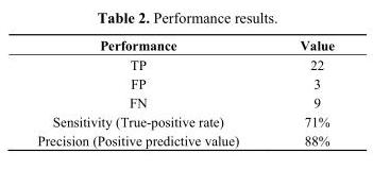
<table><thead><tr><td>Performance</td><td>Value</td></tr></thead><tbody><tr><td>TP</td><td>22</td></tr><tr><td>FP</td><td>3</td></tr><tr><td>FN</td><td>9</td></tr><tr><td>Sensitivity (True-positive rate)</td><td>71%</td></tr><tr><td>Precision (Positive predictive value)</td><td>88%</td></tr></tbody></table>